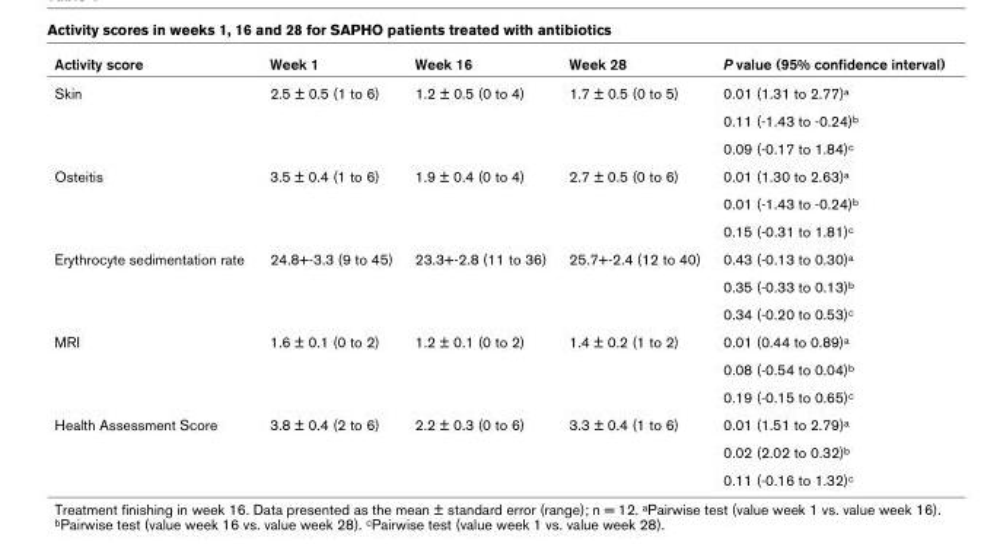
<table><thead><tr><td>Activity score</td><td>Week 1</td><td>Week 16</td><td>Week 28</td><td>P value (95% confidence interval)</td></tr></thead><tbody><tr><td rowspan="3">Skin</td><td>2.5 ± 0.5 (1 to 6)</td><td>1.2 ± 0.5 (0 to 4)</td><td>1.7 ± 0.5 (0 to 5)</td><td>0.01 (1.31 to 2.77)<sup>a</sup></td></tr><tr><td></td><td></td><td></td><td>0.11 (-1.43 to -0.24)<sup>b</sup></td></tr><tr><td></td><td></td><td></td><td>0.09 (-0.17 to 1.84)<sup>c</sup></td></tr><tr><td rowspan="3">Osteitis</td><td>3.5 ± 0.4 (1 to 6)</td><td>1.9 ± 0.4 (0 to 4)</td><td>2.7 ± 0.5 (0 to 6)</td><td>0.01 (1.30 to 2.63)<sup>a</sup></td></tr><tr><td></td><td></td><td></td><td>0.01 (-1.43 to -0.24)<sup>b</sup></td></tr><tr><td></td><td></td><td></td><td>0.15 (-0.31 to 1.81)<sup>c</sup></td></tr><tr><td rowspan="3">Erythrocyte sedimentation rate</td><td>24.8+-3.3 (9 to 45)</td><td>23.3+-2.8 (11 to 36)</td><td>25.7+-2.4 (12 to 40)</td><td>0.43 (-0.13 to 0.30)<sup>a</sup></td></tr><tr><td></td><td></td><td></td><td>0.35 (-0.33 to 0.13)<sup>b</sup></td></tr><tr><td></td><td></td><td></td><td>0.34 (-0.20 to 0.53)<sup>c</sup></td></tr><tr><td rowspan="3">MRI</td><td>1.6 ± 0.1 (0 to 2)</td><td>1.2 ± 0.1 (0 to 2)</td><td>1.4 ± 0.2 (1 to 2)</td><td>0.01 (0.44 to 0.89)<sup>a</sup></td></tr><tr><td></td><td></td><td></td><td>0.08 (-0.54 to 0.04)<sup>b</sup></td></tr><tr><td></td><td></td><td></td><td>0.19 (-0.15 to 0.65)<sup>c</sup></td></tr><tr><td rowspan="3">Health Assessment Score</td><td>3.8 ± 0.4 (2 to 6)</td><td>2.2 ± 0.3 (0 to 6)</td><td>3.3 ± 0.4 (1 to 6)</td><td>0.01 (1.51 to 2.79)<sup>a</sup></td></tr><tr><td></td><td></td><td></td><td>0.02 (2.02 to 0.32)<sup>b</sup></td></tr><tr><td></td><td></td><td></td><td>0.11 (-0.16 to 1.32)<sup>c</sup></td></tr></tbody></table>